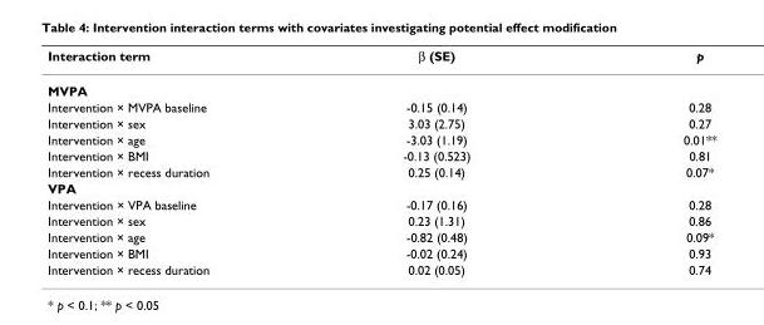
<table><thead><tr><td>Interaction term</td><td>β (SE)</td><td>p</td></tr></thead><tbody><tr><td colspan="3">MVPA</td></tr><tr><td>Intervention × MVPA baseline</td><td>-0.15 (0.14)</td><td>0.28</td></tr><tr><td>Intervention × sex</td><td>3.03 (2.75)</td><td>0.27</td></tr><tr><td>Intervention × age</td><td>-3.03 (1.19)</td><td>0.01**</td></tr><tr><td>Intervention × BMI</td><td>-0.13 (0.523)</td><td>0.81</td></tr><tr><td>Intervention × recess duration</td><td>0.25 (0.14)</td><td>0.07*</td></tr><tr><td colspan="3">VPA</td></tr><tr><td>Intervention × VPA baseline</td><td>-0.17 (0.16)</td><td>0.28</td></tr><tr><td>Intervention × sex</td><td>0.23 (1.31)</td><td>0.86</td></tr><tr><td>Intervention × age</td><td>-0.82 (0.48)</td><td>0.09*</td></tr><tr><td>Intervention × BMI</td><td>-0.02 (0.24)</td><td>0.93</td></tr><tr><td>Intervention × recess duration</td><td>0.02 (0.05)</td><td>0.74</td></tr></tbody></table>